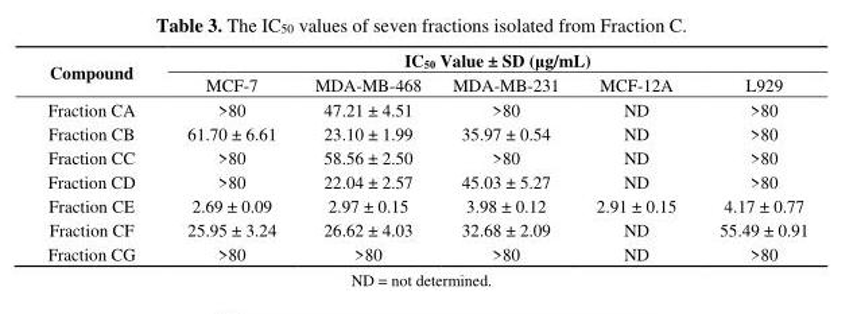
<table><thead><tr><td rowspan="2">Compound</td><td colspan="5">IC<sub>50</sub> Value ± SD (μg/mL)</td></tr><tr><td>MCF-7</td><td>MDA-MB-468</td><td>MDA-MB-231</td><td>MCF-12A</td><td>L929</td></tr></thead><tbody><tr><td>Fraction CA</td><td>&gt;80</td><td>47.21 ± 4.51</td><td>&gt;80</td><td>ND</td><td>&gt;80</td></tr><tr><td>Fraction CB</td><td>61.70 ± 6.61</td><td>23.10 ± 1.99</td><td>35.97 ± 0.54</td><td>ND</td><td>&gt;80</td></tr><tr><td>Fraction CC</td><td>&gt;80</td><td>58.56 ± 2.50</td><td>&gt;80</td><td>ND</td><td>&gt;80</td></tr><tr><td>Fraction CD</td><td>&gt;80</td><td>22.04 ± 2.57</td><td>45.03 ± 5.27</td><td>ND</td><td>&gt;80</td></tr><tr><td>Fraction CE</td><td>2.69 ± 0.09</td><td>2.97 ± 0.15</td><td>3.98 ± 0.12</td><td>2.91 ± 0.15</td><td>4.17 ± 0.77</td></tr><tr><td>Fraction CF</td><td>25.95 ± 3.24</td><td>26.62 ± 4.03</td><td>32.68 ± 2.09</td><td>ND</td><td>55.49 ± 0.91</td></tr><tr><td>Fraction CG</td><td>&gt;80</td><td>&gt;80</td><td>&gt;80</td><td>ND</td><td>&gt;80</td></tr></tbody></table>